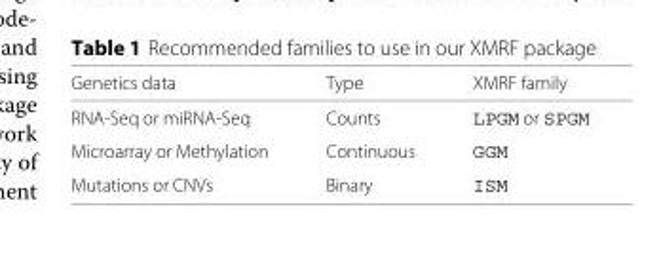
<table><thead><tr><td>Genetics data</td><td>Type</td><td>XMRF family</td></tr></thead><tbody><tr><td>RNA-Seq or miRNA-Seq</td><td>Counts</td><td>LPGM or SPGM</td></tr><tr><td>Microarray or Methylation</td><td>Continuous</td><td>GGM</td></tr><tr><td>Mutations or CNVs</td><td>Binary</td><td>ISM</td></tr></tbody></table>